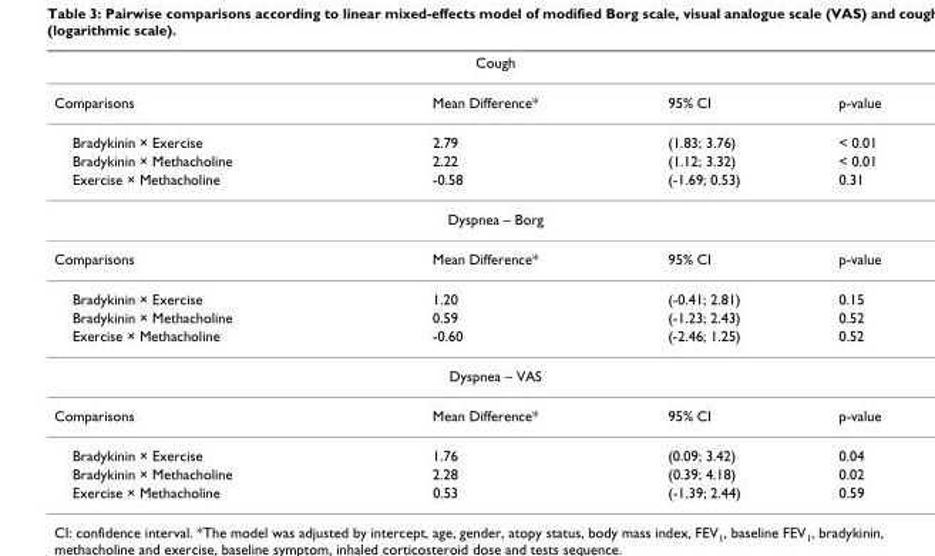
<table><thead><tr><td colspan="4">Cough</td></tr><tr><td>Comparisons</td><td>Mean Difference*</td><td>95% CI</td><td>p-value</td></tr></thead><tbody><tr><td>Bradykinin × Exercise</td><td>2.79</td><td>(1.83; 3.76)</td><td>&lt; 0.01</td></tr><tr><td>Bradykinin × Methacholine</td><td>2.22</td><td>(1.12; 3.32)</td><td>&lt; 0.01</td></tr><tr><td>Exercise × Methacholine</td><td>-0.58</td><td>(-1.69; 0.53)</td><td>0.31</td></tr><tr><td colspan="4">Dyspnea – Borg</td></tr><tr><td>Comparisons</td><td>Mean Difference*</td><td>95% CI</td><td>p-value</td></tr><tr><td>Bradykinin × Exercise</td><td>1.20</td><td>(-0.41; 2.81)</td><td>0.15</td></tr><tr><td>Bradykinin × Methacholine</td><td>0.59</td><td>(-1.23; 2.43)</td><td>0.52</td></tr><tr><td>Exercise × Methacholine</td><td>-0.60</td><td>(-2.46; 1.25)</td><td>0.52</td></tr><tr><td colspan="4">Dyspnea – VAS</td></tr><tr><td>Comparisons</td><td>Mean Difference*</td><td>95% CI</td><td>p-value</td></tr><tr><td>Bradykinin × Exercise</td><td>1.76</td><td>(0.09; 3.42)</td><td>0.04</td></tr><tr><td>Bradykinin × Methacholine</td><td>2.28</td><td>(0.39; 4.18)</td><td>0.02</td></tr><tr><td>Exercise × Methacholine</td><td>0.53</td><td>(-1.39; 2.44)</td><td>0.59</td></tr></tbody></table>